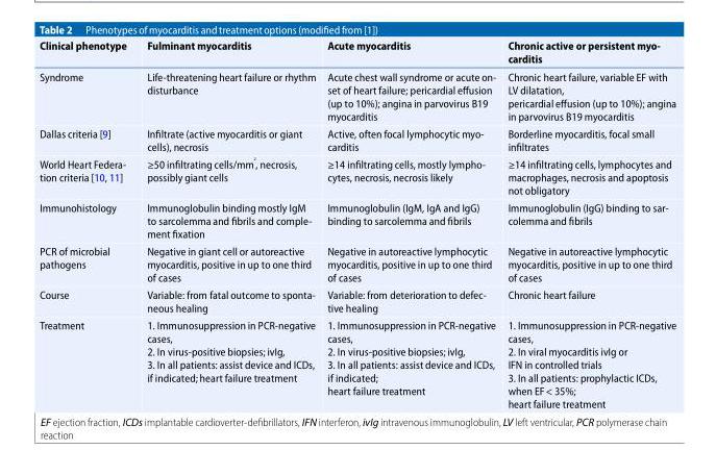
<table><thead><tr><td>Clinical phenotype</td><td>Fulminant myocarditis</td><td>Acute myocarditis</td><td>Chronic active or persistent myo- carditis</td></tr></thead><tbody><tr><td>Syndrome</td><td>Life-threatening heart failure or rhythm disturbance</td><td>Acute chest wall syndrome or acute on- set of heart failure; pericardial effusion (up to 10%); angina in parvovirus B19 myocarditis</td><td>Chronic heart failure, variable EF with LV dilatation, pericardial effusion (up to 10%); angina in parvovirus B19 myocarditis</td></tr><tr><td>Dallas criteria [9]</td><td>Infiltrate (active myocarditis or giant cells), necrosis</td><td>Active, often focal lymphocytic myo- carditis</td><td>Borderline myocarditis, focal small infiltrates</td></tr><tr><td>World Heart Federa- tion criteria [10, 11]</td><td>≥50 infiltrating cells/mm², necrosis, possibly giant cells</td><td>≥14 infiltrating cells, mostly lympho- cytes, necrosis, necrosis likely</td><td>≥14 infiltrating cells, lymphocytes and macrophages, necrosis and apoptosis not obligatory</td></tr><tr><td>Immunohistology</td><td>Immunoglobulin binding mostly IgM to sarcolemma and fibrils and comple- ment fixation</td><td>Immunoglobulin (IgM, IgA and IgG) binding to sarcolemma and fibrils</td><td>Immunoglobulin (IgG) binding to sar- colemma and fibrils</td></tr><tr><td>PCR of microbial pathogens</td><td>Negative in giant cell or autoreactive myocarditis, positive in up to one third of cases</td><td>Negative in autoreactive lymphocytic myocarditis, positive in up to one third of cases</td><td>Negative in autoreactive lymphocytic myocarditis, positive in up to one third of cases</td></tr><tr><td>Course</td><td>Variable: from fatal outcome to sponta- neous healing</td><td>Variable: from deterioration to defec- tive healing</td><td>Chronic heart failure</td></tr><tr><td>Treatment</td><td>1. Immunosuppression in PCR-negative cases, 2. In virus-positive biopsies; ivIg, 3. In all patients: assist device and ICDs, if indicated; heart failure treatment</td><td>1. Immunosuppression in PCR-negative cases, 2. In virus-positive biopsies; ivIg, 3. In all patients: assist device and ICDs, if indicated; heart failure treatment</td><td>1. Immunosuppression in PCR-negative cases, 2. In viral myocarditis ivIg or IFN in controlled trials 3. In all patients: prophylactic ICDs, when EF&lt; 35%; heart failure treatment</td></tr></tbody></table>